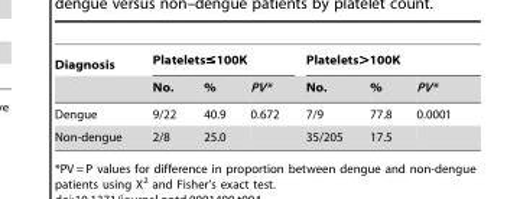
<table><thead><tr><td rowspan="2">Diagnosis</td><td colspan="3">Platelets≤100K</td><td colspan="3">Platelets&gt;100K</td></tr><tr><td>No.</td><td>%</td><td>PV*</td><td>No.</td><td>%</td><td>PV*</td></tr></thead><tbody><tr><td>Dengue</td><td>9/22</td><td>40.9</td><td>0.672</td><td>7/9</td><td>77.8</td><td>0.0001</td></tr><tr><td>Non-dengue</td><td>2/8</td><td>25.0</td><td></td><td>35/205</td><td>17.5</td><td></td></tr></tbody></table>